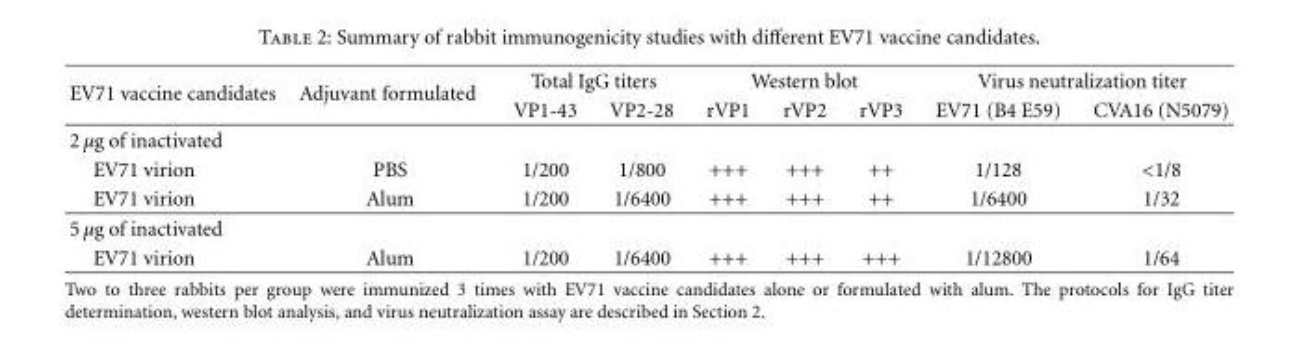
<table><thead><tr><td rowspan="2">EV71 vaccine candidates</td><td rowspan="2">Adjuvant formulated</td><td colspan="2">Total IgG titers</td><td colspan="3">Western blot</td><td colspan="2">Virus neutralization titer</td></tr><tr><td>VP1-43</td><td>VP2-28</td><td>rVP1</td><td>rVP2</td><td>rVP3</td><td>EV71 (B4 E59)</td><td>CVA16 (N5079)</td></tr></thead><tbody><tr><td colspan="9">2 µg of inactivated</td></tr><tr><td>EV71 virion</td><td>PBS</td><td>1/200</td><td>1/800</td><td>+++</td><td>+++</td><td>++</td><td>1/128</td><td>&lt;1/8</td></tr><tr><td>EV71 virion</td><td>Alum</td><td>1/200</td><td>1/6400</td><td>+++</td><td>+++</td><td>++</td><td>1/6400</td><td>1/32</td></tr><tr><td colspan="9">5 µg of inactivated</td></tr><tr><td>EV71 virion</td><td>Alum</td><td>1/200</td><td>1/6400</td><td>+++</td><td>+++</td><td>+++</td><td>1/12800</td><td>1/64</td></tr></tbody></table>